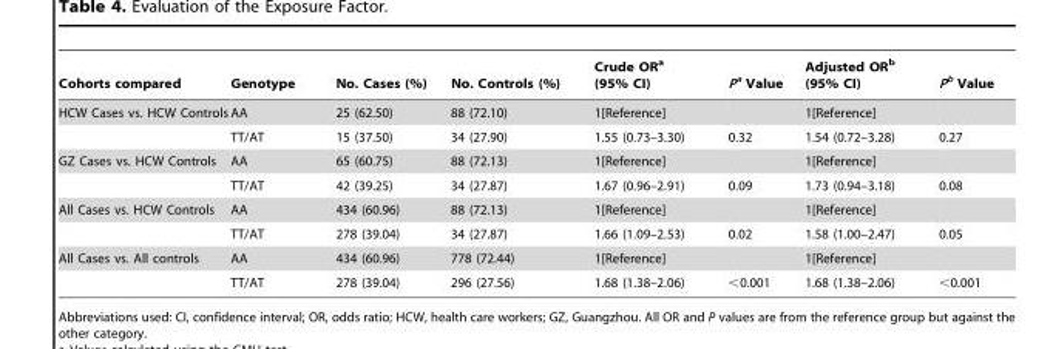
<table><thead><tr><td>Cohorts compared</td><td>Genotype</td><td>No. Cases (%)</td><td>No. Controls (%)</td><td>Crude OR<sup>a</sup> (95% CI)</td><td>P<sup>a</sup> Value</td><td>Adjusted OR<sup>b</sup> (95% CI)</td><td>P<sup>b</sup> Value</td></tr></thead><tbody><tr><td rowspan="2">HCW Cases vs. HCW Controls</td><td>AA</td><td>25 (62.50)</td><td>88 (72.10)</td><td>1[Reference]</td><td></td><td>1[Reference]</td><td></td></tr><tr><td>TT/AT</td><td>15 (37.50)</td><td>34 (27.90)</td><td>1.55 (0.73–3.30)</td><td>0.32</td><td>1.54 (0.72–3.28)</td><td>0.27</td></tr><tr><td rowspan="2">GZ Cases vs. HCW Controls</td><td>AA</td><td>65 (60.75)</td><td>88 (72.13)</td><td>1[Reference]</td><td></td><td>1[Reference]</td><td></td></tr><tr><td>TT/AT</td><td>42 (39.25)</td><td>34 (27.87)</td><td>1.67 (0.96–2.91)</td><td>0.09</td><td>1.73 (0.94–3.18)</td><td>0.08</td></tr><tr><td rowspan="2">All Cases vs. HCW Controls</td><td>AA</td><td>434 (60.96)</td><td>88 (72.13)</td><td>1[Reference]</td><td></td><td>1[Reference]</td><td></td></tr><tr><td>TT/AT</td><td>278 (39.04)</td><td>34 (27.87)</td><td>1.66 (1.09–2.53)</td><td>0.02</td><td>1.58 (1.00–2.47)</td><td>0.05</td></tr><tr><td rowspan="2">All Cases vs. All controls</td><td>AA</td><td>434 (60.96)</td><td>778 (72.44)</td><td>1[Reference]</td><td></td><td>1[Reference]</td><td></td></tr><tr><td>TT/AT</td><td>278 (39.04)</td><td>296 (27.56)</td><td>1.68 (1.38–2.06)</td><td>&lt;0.001</td><td>1.68 (1.38–2.06)</td><td>&lt;0.001</td></tr></tbody></table>